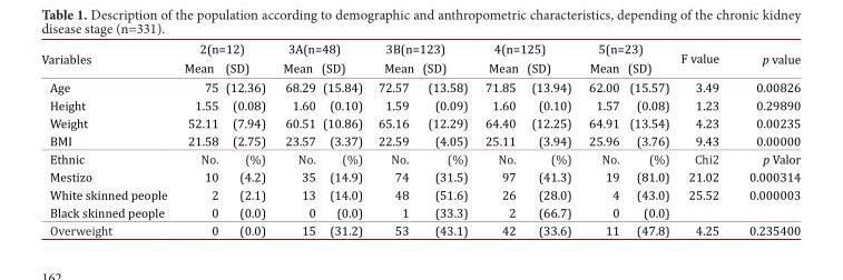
<table><thead><tr><td rowspan="2">Variables</td><td rowspan="2">2(n=12) Mean (SD)</td><td rowspan="2">3A(n=48) Mean (SD)</td><td rowspan="2">3B(n=123) Mean (SD)</td><td rowspan="2">4(n=125) Mean (SD)</td><td rowspan="2">5(n=23) Mean (SD)</td><td rowspan="2">F value</td><td rowspan="2">p value</td></tr><tr></tr></thead><tbody><tr><td>Age</td><td>75 (12.36)</td><td>68.29 (15.84)</td><td>72.57 (13.58)</td><td>71.85 (13.94)</td><td>62.00 (15.57)</td><td>3.49</td><td>0.00826</td></tr><tr><td>Height</td><td>1.55 (0.08)</td><td>1.60 (0.10)</td><td>1.59 (0.09)</td><td>1.60 (0.10)</td><td>1.57 (0.08)</td><td>1.23</td><td>0.29890</td></tr><tr><td>Weight</td><td>52.11 (7.94)</td><td>60.51 (10.86)</td><td>65.16 (12.29)</td><td>64.40 (12.25)</td><td>64.91 (13.54)</td><td>4.23</td><td>0.00235</td></tr><tr><td>BMI</td><td>21.58 (2.75)</td><td>23.57 (3.37)</td><td>22.59 (4.05)</td><td>25.11 (3.94)</td><td>25.96 (3.76)</td><td>9.43</td><td>0.00000</td></tr><tr><td>Ethnic</td><td>No. (%)</td><td>No. (%)</td><td>No. (%)</td><td>No. (%)</td><td>No. (%)</td><td>Chi2</td><td>p Valor</td></tr><tr><td>Mestizo</td><td>10 (4.2)</td><td>35 (14.9)</td><td>74 (31.5)</td><td>97 (41.3)</td><td>19 (81.0)</td><td>21.02</td><td>0.000314</td></tr><tr><td>White skinned people</td><td>2 (2.1)</td><td>13 (14.0)</td><td>48 (51.6)</td><td>26 (28.0)</td><td>4 (43.0)</td><td>25.52</td><td>0.000003</td></tr><tr><td>Black skinned people</td><td>0 (0.0)</td><td>0 (0.0)</td><td>1 (33.3)</td><td>2 (66.7)</td><td>0 (0.0)</td><td></td><td></td></tr><tr><td>Overweight</td><td>0 (0.0)</td><td>15 (31.2)</td><td>53 (43.1)</td><td>42 (33.6)</td><td>11 (47.8)</td><td>4.25</td><td>0.235400</td></tr></tbody></table>